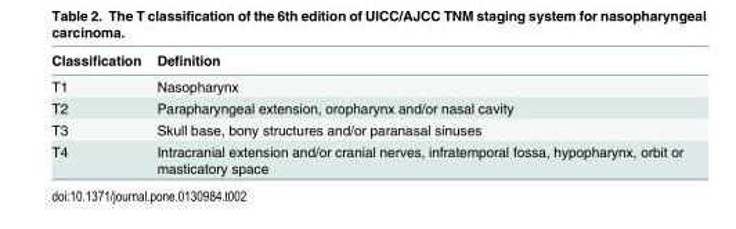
<table><thead><tr><td>Classification</td><td>Definition</td></tr></thead><tbody><tr><td>T1</td><td>Nasopharynx</td></tr><tr><td>T2</td><td>Parapharyngeal extension, oropharynx and/or nasal cavity</td></tr><tr><td>T3</td><td>Skull base, bony structures and/or paranasal sinuses</td></tr><tr><td>T4</td><td>Intracranial extension and/or cranial nerves, infratemporal fossa, hypopharynx, orbit or masticatory space</td></tr></tbody></table>